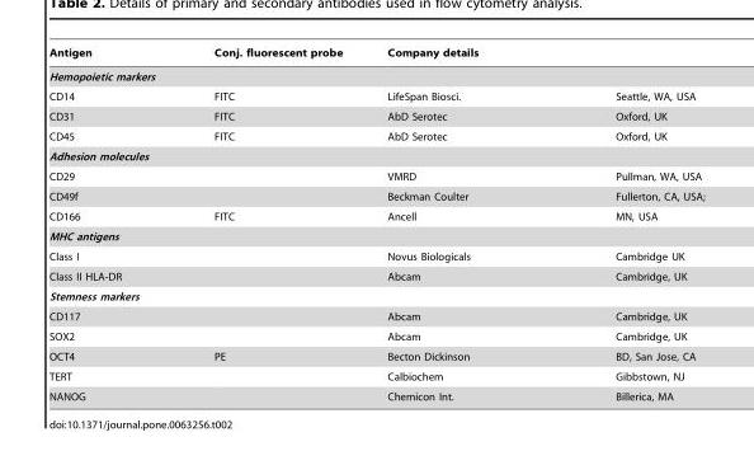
<table><thead><tr><td>Antigen</td><td>Conj. fluorescent probe</td><td colspan="2">Company details</td></tr><tr><td colspan="4">Hemopoietic markers</td></tr><tr><td>CD14</td><td>FITC</td><td>LifeSpan Biosci.</td><td>Seattle, WA, USA</td></tr></thead><tbody><tr><td>CD31</td><td>FITC</td><td>AbD Serotec</td><td>Oxford, UK</td></tr><tr><td>CD45</td><td>FITC</td><td>AbD Serotec</td><td>Oxford, UK</td></tr><tr><td colspan="4">Adhesion molecules</td></tr><tr><td>CD29</td><td></td><td>VMRD</td><td>Pullman, WA, USA</td></tr><tr><td>CD49f</td><td></td><td>Beckman Coulter</td><td>Fullerton, CA, USA;</td></tr><tr><td>CD166</td><td>FITC</td><td>Ancell</td><td>MN, USA</td></tr><tr><td colspan="4">MHC antigens</td></tr><tr><td>Class I</td><td></td><td>Novus Biologicals</td><td>Cambridge UK</td></tr><tr><td>Class II HLA-DR</td><td></td><td>Abcam</td><td>Cambridge, UK</td></tr><tr><td colspan="4">Stemness markers</td></tr><tr><td>CD117</td><td></td><td>Abcam</td><td>Cambridge, UK</td></tr><tr><td>SOX2</td><td></td><td>Abcam</td><td>Cambridge, UK</td></tr><tr><td>OCT4</td><td>PE</td><td>Becton Dickinson</td><td>BD, San Jose, CA</td></tr><tr><td>TERT</td><td></td><td>Calbiochem</td><td>Gibbstown, NJ</td></tr><tr><td>NANOG</td><td></td><td>Chemicon Int.</td><td>Billerica, MA</td></tr></tbody></table>